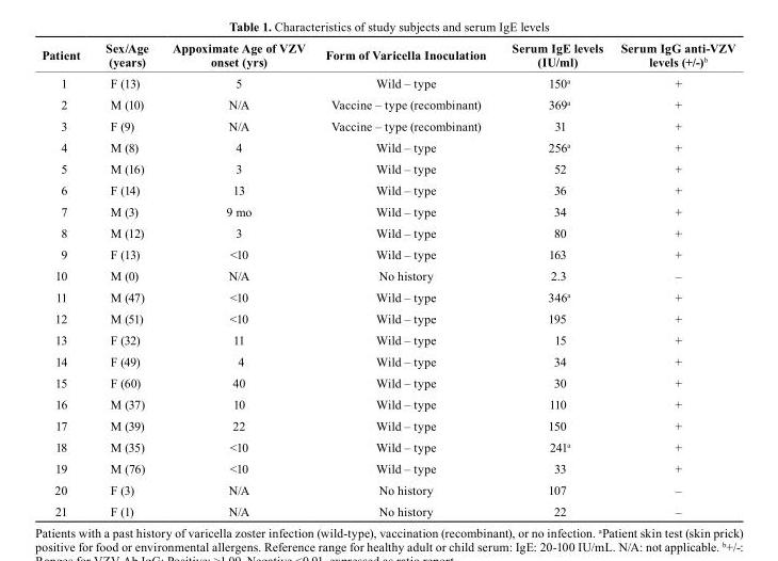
<table><thead><tr><td>Patient</td><td>Sex/Age (years)</td><td>Appoximate Age of VZV onset (yrs)</td><td>Form of Varicella Inoculation</td><td>Serum IgE levels (IU/ml)</td><td>Serum IgG anti-VZV levels (+/-)b</td></tr></thead><tbody><tr><td>1</td><td>F (13)</td><td>5</td><td>Wild – type</td><td>150<sup>a</sup></td><td>+</td></tr><tr><td>2</td><td>M (10)</td><td>N/A</td><td>Vaccine – type (recombinant)</td><td>369<sup>a</sup></td><td>+</td></tr><tr><td>3</td><td>F (9)</td><td>N/A</td><td>Vaccine – type (recombinant)</td><td>31</td><td>+</td></tr><tr><td>4</td><td>M (8)</td><td>4</td><td>Wild – type</td><td>256<sup>a</sup></td><td>+</td></tr><tr><td>5</td><td>M (16)</td><td>3</td><td>Wild – type</td><td>52</td><td>+</td></tr><tr><td>6</td><td>F (14)</td><td>13</td><td>Wild – type</td><td>36</td><td>+</td></tr><tr><td>7</td><td>M (3)</td><td>9 mo</td><td>Wild – type</td><td>34</td><td>+</td></tr><tr><td>8</td><td>M (12)</td><td>3</td><td>Wild – type</td><td>80</td><td>+</td></tr><tr><td>9</td><td>F (13)</td><td>&lt;10</td><td>Wild – type</td><td>163</td><td>+</td></tr><tr><td>10</td><td>M (0)</td><td>N/A</td><td>No history</td><td>2.3</td><td>–</td></tr><tr><td>11</td><td>M (47)</td><td>&lt;10</td><td>Wild – type</td><td>346<sup>a</sup></td><td>+</td></tr><tr><td>12</td><td>M (51)</td><td>&lt;10</td><td>Wild – type</td><td>195</td><td>+</td></tr><tr><td>13</td><td>F (32)</td><td>11</td><td>Wild – type</td><td>15</td><td>+</td></tr><tr><td>14</td><td>F (49)</td><td>4</td><td>Wild – type</td><td>34</td><td>+</td></tr><tr><td>15</td><td>F (60)</td><td>40</td><td>Wild – type</td><td>30</td><td>+</td></tr><tr><td>16</td><td>M (37)</td><td>10</td><td>Wild – type</td><td>110</td><td>+</td></tr><tr><td>17</td><td>M (39)</td><td>22</td><td>Wild – type</td><td>150</td><td>+</td></tr><tr><td>18</td><td>M (35)</td><td>&lt;10</td><td>Wild – type</td><td>241<sup>a</sup></td><td>+</td></tr><tr><td>19</td><td>M (76)</td><td>&lt;10</td><td>Wild – type</td><td>33</td><td>+</td></tr><tr><td>20</td><td>F (3)</td><td>N/A</td><td>No history</td><td>107</td><td>–</td></tr><tr><td>21</td><td>F (1)</td><td>N/A</td><td>No history</td><td>22</td><td>–</td></tr></tbody></table>